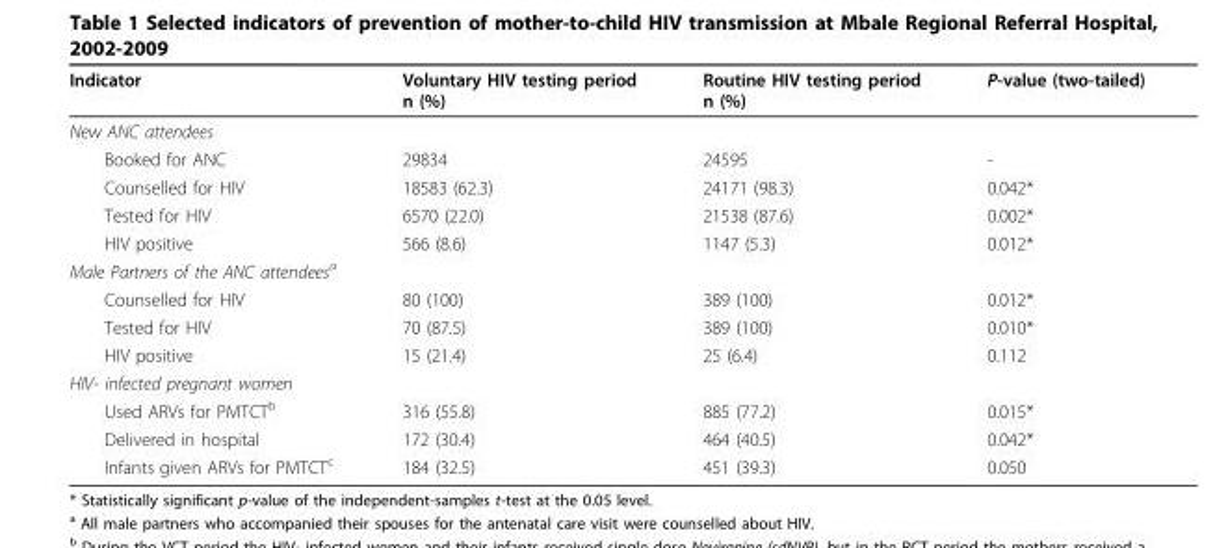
<table><thead><tr><td>Indicator</td><td>Voluntary HIV testing period n (%)</td><td>Routine HIV testing period n (%)</td><td>P-value (two-tailed)</td></tr></thead><tbody><tr><td colspan="4">New ANC attendees</td></tr><tr><td>Booked for ANC</td><td>29834</td><td>24595</td><td>-</td></tr><tr><td>Counselled for HIV</td><td>18583 (62.3)</td><td>24171 (98.3)</td><td>0.042*</td></tr><tr><td>Tested for HIV</td><td>6570 (22.0)</td><td>21538 (87.6)</td><td>0.002*</td></tr><tr><td>HIV positive</td><td>566 (8.6)</td><td>1147 (5.3)</td><td>0.012*</td></tr><tr><td colspan="4">Male Partners of the ANC attendees<sup>a</sup></td></tr><tr><td>Counselled for HIV</td><td>80 (100)</td><td>389 (100)</td><td>0.012*</td></tr><tr><td>Tested for HIV</td><td>70 (87.5)</td><td>389 (100)</td><td>0.010*</td></tr><tr><td>HIV positive</td><td>15 (21.4)</td><td>25 (6.4)</td><td>0.112</td></tr><tr><td colspan="4">HIV- infected pregnant women</td></tr><tr><td>Used ARVs for PMTCT<sup>b</sup></td><td>316 (55.8)</td><td>885 (77.2)</td><td>0.015*</td></tr><tr><td>Delivered in hospital</td><td>172 (30.4)</td><td>464 (40.5)</td><td>0.042*</td></tr><tr><td>Infants given ARVs for PMTCT<sup>c</sup></td><td>184 (32.5)</td><td>451 (39.3)</td><td>0.050</td></tr></tbody></table>